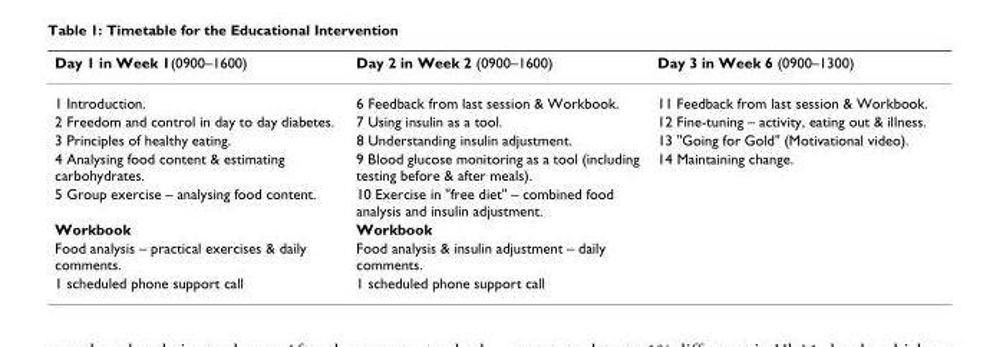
<table><thead><tr><td>Day 1 in Week 1(0900–1600)</td><td>Day 2 in Week 2 (0900–1600)</td><td>Day 3 in Week 6 (0900–1300)</td></tr></thead><tbody><tr><td>1 Introduction.</td><td>6 Feedback from last session &amp; Workbook.</td><td>11 Feedback from last session &amp; Workbook.</td></tr><tr><td>2 Freedom and control in day to day diabetes.</td><td>7 Using insulin as a tool.</td><td>12 Fine-tuning – activity, eating out &amp; illness.</td></tr><tr><td>3 Principles of healthy eating.</td><td>8 Understanding insulin adjustment.</td><td>13 &quot;Going for Gold&quot; (Motivational video).</td></tr><tr><td>4 Analysing food content &amp; estimating carbohydrates.</td><td>9 Blood glucose monitoring as a tool (including testing before &amp; after meals).</td><td>14 Maintaining change.</td></tr><tr><td>5 Group exercise – analysing food content.</td><td>10 Exercise in &quot;free diet&quot; – combined food analysis and insulin adjustment.</td><td></td></tr><tr><td>Workbook</td><td>Workbook</td><td></td></tr><tr><td>Food analysis – practical exercises &amp; daily comments.</td><td>Food analysis &amp; insulin adjustment – daily comments.</td><td></td></tr><tr><td>1 scheduled phone support call</td><td>1 scheduled phone support call</td><td></td></tr></tbody></table>